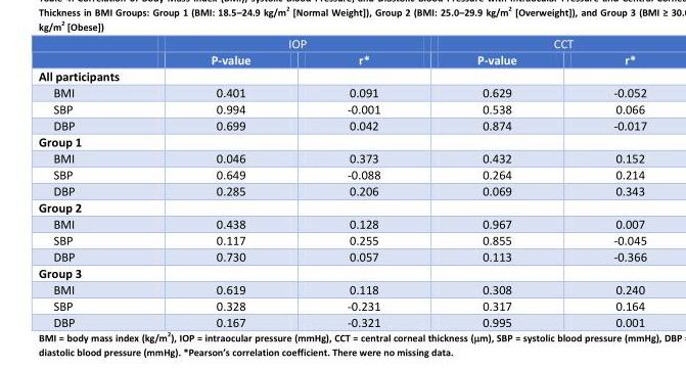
<table><thead><tr><td rowspan="2"></td><td colspan="2">IOP</td><td colspan="2">CCT</td></tr><tr><td>P-value</td><td>r*</td><td>P-value</td><td>r*</td></tr></thead><tbody><tr><td colspan="5">All participants</td></tr><tr><td>BMI</td><td>0.401</td><td>0.091</td><td>0.629</td><td>-0.052</td></tr><tr><td>SBP</td><td>0.994</td><td>-0.001</td><td>0.538</td><td>0.066</td></tr><tr><td>DBP</td><td>0.699</td><td>0.042</td><td>0.874</td><td>-0.017</td></tr><tr><td colspan="5">Group 1</td></tr><tr><td>BMI</td><td>0.046</td><td>0.373</td><td>0.432</td><td>0.152</td></tr><tr><td>SBP</td><td>0.649</td><td>-0.088</td><td>0.264</td><td>0.214</td></tr><tr><td>DBP</td><td>0.285</td><td>0.206</td><td>0.069</td><td>0.343</td></tr><tr><td colspan="5">Group 2</td></tr><tr><td>BMI</td><td>0.438</td><td>0.128</td><td>0.967</td><td>0.007</td></tr><tr><td>SBP</td><td>0.117</td><td>0.255</td><td>0.855</td><td>-0.045</td></tr><tr><td>DBP</td><td>0.730</td><td>0.057</td><td>0.113</td><td>-0.366</td></tr><tr><td colspan="5">Group 3</td></tr><tr><td>BMI</td><td>0.619</td><td>0.118</td><td>0.308</td><td>0.240</td></tr><tr><td>SBP</td><td>0.328</td><td>-0.231</td><td>0.317</td><td>0.164</td></tr><tr><td>DBP</td><td>0.167</td><td>-0.321</td><td>0.995</td><td>0.001</td></tr></tbody></table>